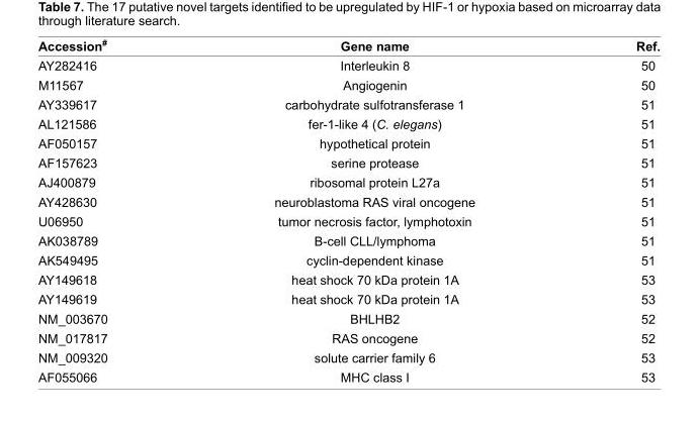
<table><thead><tr><td>Accession<sup>#</sup></td><td>Gene name</td><td>Ref.</td></tr></thead><tbody><tr><td>AY282416</td><td>Interleukin 8</td><td>50</td></tr><tr><td>M11567</td><td>Angiogenin</td><td>50</td></tr><tr><td>AY339617</td><td>carbohydrate sulfotransferase 1</td><td>51</td></tr><tr><td>AL121586</td><td>fer-1-like 4 (C. elegans)</td><td>51</td></tr><tr><td>AF050157</td><td>hypothetical protein</td><td>51</td></tr><tr><td>AF157623</td><td>serine protease</td><td>51</td></tr><tr><td>AJ400879</td><td>ribosomal protein L27a</td><td>51</td></tr><tr><td>AY428630</td><td>neuroblastoma RAS viral oncogene</td><td>51</td></tr><tr><td>U06950</td><td>tumor necrosis factor, lymphotoxin</td><td>51</td></tr><tr><td>AK038789</td><td>B-cell CLL/lymphoma</td><td>51</td></tr><tr><td>AK549495</td><td>cyclin-dependent kinase</td><td>51</td></tr><tr><td>AY149618</td><td>heat shock 70 kDa protein 1A</td><td>53</td></tr><tr><td>AY149619</td><td>heat shock 70 kDa protein 1A</td><td>53</td></tr><tr><td>NM_003670</td><td>BHLHB2</td><td>52</td></tr><tr><td>NM_017817</td><td>RAS oncogene</td><td>52</td></tr><tr><td>NM_009320</td><td>solute carrier family 6</td><td>53</td></tr><tr><td>AF055066</td><td>MHC class I</td><td>53</td></tr></tbody></table>